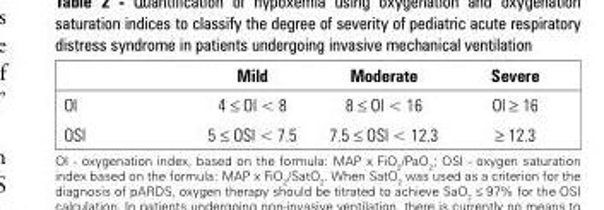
<table><thead><tr><td></td><td>Mild</td><td>Moderate</td><td>Severe</td></tr></thead><tbody><tr><td>OI</td><td>4 ≤ OI &lt; 8</td><td>8 ≤ OI &lt; 16</td><td>OI ≥ 16</td></tr><tr><td>OSI</td><td>5 ≤ OSI &lt; 7.5</td><td>7.5 ≤ OSI &lt; 12.3</td><td>≥ 12.3</td></tr></tbody></table>